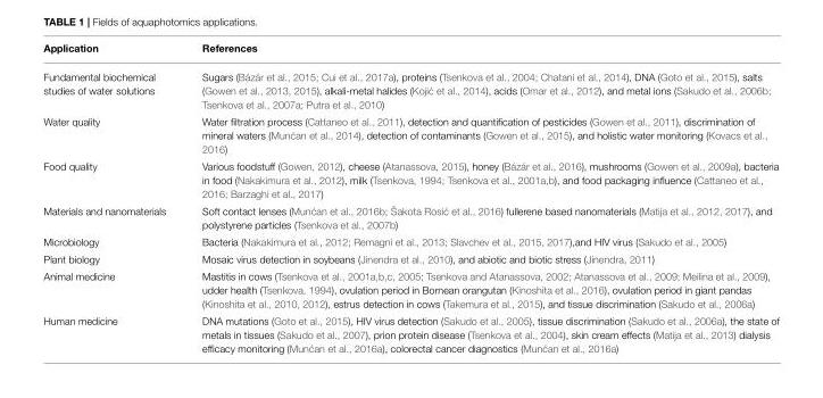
<table><thead><tr><td>Application</td><td>References</td></tr></thead><tbody><tr><td>Fundamental biochemical studies of water solutions</td><td>Sugars (Bázár et al., 2015; Cui et al., 2017a), proteins (Tsenkova et al., 2004; Chatani et al., 2014), DNA (Goto et al., 2015), salts (Gowen et al., 2013, 2015), alkali-metal halides (Koji ´c et al., 2014), acids (Omar et al., 2012), and metal ions (Sakudo et al., 2006b; Tsenkova et al., 2007a; Putra et al., 2010)</td></tr><tr><td>Water quality</td><td>Water filtration process (Cattaneo et al., 2011), detection and quantification of pesticides (Gowen et al., 2011), discrimination of mineral waters (Mun ´can et al., 2014), detection of contaminants (Gowen et al., 2015), and holistic water monitoring (Kovacs et al., 2016)</td></tr><tr><td>Food quality</td><td>Various foodstuff (Gowen, 2012), cheese (Atanassova, 2015), honey (Bázár et al., 2016), mushrooms (Gowen et al., 2009a), bacteria in food (Nakakimura et al., 2012), milk (Tsenkova, 1994; Tsenkova et al., 2001a,b), and food packaging influence (Cattaneo et al., 2016; Barzaghi et al., 2017)</td></tr><tr><td>Materials and nanomaterials</td><td>Soft contact lenses (Mun ´can et al., 2016b; Šakota Rosi ´c et al., 2016) fullerene based nanomaterials (Matija et al., 2012, 2017), and polystyrene particles (Tsenkova et al., 2007b)</td></tr><tr><td>Microbiology</td><td>Bacteria (Nakakimura et al., 2012; Remagni et al., 2013; Slavchev et al., 2015, 2017),and HIV virus (Sakudo et al., 2005)</td></tr><tr><td>Plant biology</td><td>Mosaic virus detection in soybeans (Jinendra et al., 2010), and abiotic and biotic stress (Jinendra, 2011)</td></tr><tr><td>Animal medicine</td><td>Mastitis in cows (Tsenkova et al., 2001a,b,c, 2005; Tsenkova and Atanassova, 2002; Atanassova et al., 2009; Meilina et al., 2009), udder health (Tsenkova, 1994), ovulation period in Bornean orangutan (Kinoshita et al., 2016), ovulation period in giant pandas (Kinoshita et al., 2010, 2012), estrus detection in cows (Takemura et al., 2015), and tissue discrimination (Sakudo et al., 2006a)</td></tr><tr><td>Human medicine</td><td>DNA mutations (Goto et al., 2015), HIV virus detection (Sakudo et al., 2005), tissue discrimination (Sakudo et al., 2006a), the state of metals in tissues (Sakudo et al., 2007), prion protein disease (Tsenkova et al., 2004), skin cream effects (Matija et al., 2013) dialysis efficacy monitoring (Mun ´can et al., 2016a), colorectal cancer diagnostics (Mun ´can et al., 2016a)</td></tr></tbody></table>